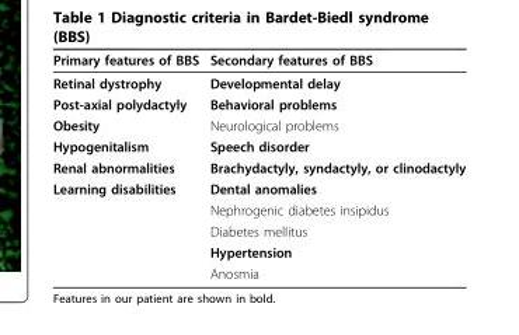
<table><thead><tr><td>Primary features of BBS</td><td>Secondary features of BBS</td></tr></thead><tbody><tr><td>Retinal dystrophy</td><td>Developmental delay</td></tr><tr><td>Post-axial polydactyly</td><td>Behavioral problems</td></tr><tr><td>Obesity</td><td>Neurological problems</td></tr><tr><td>Hypogenitalism</td><td>Speech disorder</td></tr><tr><td>Renal abnormalities</td><td>Brachydactyly, syndactyly, or clinodactyly</td></tr><tr><td rowspan="5">Learning disabilities</td><td>Dental anomalies</td></tr><tr><td>Nephrogenic diabetes insipidus</td></tr><tr><td>Diabetes mellitus</td></tr><tr><td>Hypertension</td></tr><tr><td>Anosmia</td></tr></tbody></table>